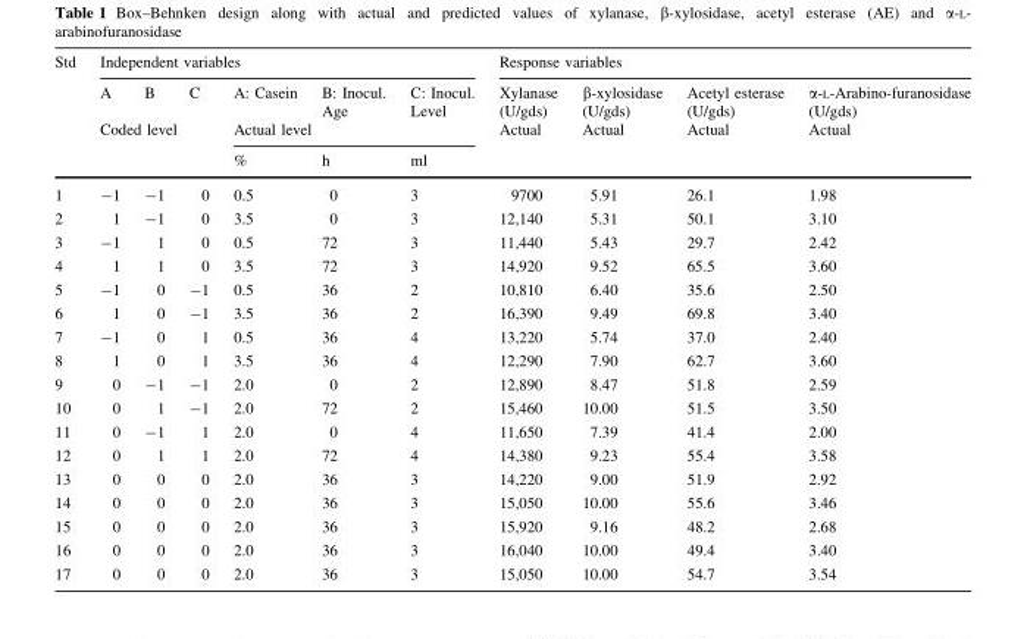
<table><thead><tr><td rowspan="4">Std</td><td colspan="6">Independent variables</td><td colspan="4">Response variables</td></tr><tr><td>A</td><td>B</td><td>C</td><td>A: Casein</td><td>B: Inocul. Age</td><td>C: Inocul. Level</td><td rowspan="3">Xylanase (U/gds) Actual</td><td rowspan="3">β-xylosidase (U/gds) Actual</td><td rowspan="3">Acetyl esterase (U/gds) Actual</td><td rowspan="3">α-L-Arabino-furanosidase (U/gds) Actual</td></tr><tr><td rowspan="2" colspan="3">Coded level</td><td colspan="3">Actual level</td></tr><tr><td>%</td><td>h</td><td>ml</td></tr></thead><tbody><tr><td>1</td><td>-1</td><td>-1</td><td>0</td><td>0.5</td><td>0</td><td>3</td><td>9700</td><td>5.91</td><td>26.1</td><td>1.98</td></tr><tr><td>2</td><td>1</td><td>-1</td><td>0</td><td>3.5</td><td>0</td><td>3</td><td>12,140</td><td>5.31</td><td>50.1</td><td>3.10</td></tr><tr><td>3</td><td>-1</td><td>1</td><td>0</td><td>0.5</td><td>72</td><td>3</td><td>11,440</td><td>5.43</td><td>29.7</td><td>2.42</td></tr><tr><td>4</td><td>1</td><td>1</td><td>0</td><td>3.5</td><td>72</td><td>3</td><td>14,920</td><td>9.52</td><td>65.5</td><td>3.60</td></tr><tr><td>5</td><td>-1</td><td>0</td><td>-1</td><td>0.5</td><td>36</td><td>2</td><td>10,810</td><td>6.40</td><td>35.6</td><td>2.50</td></tr><tr><td>6</td><td>1</td><td>0</td><td>-1</td><td>3.5</td><td>36</td><td>2</td><td>16,390</td><td>9.49</td><td>69.8</td><td>3.40</td></tr><tr><td>7</td><td>-1</td><td>0</td><td>1</td><td>0.5</td><td>36</td><td>4</td><td>13,220</td><td>5.74</td><td>37.0</td><td>2.40</td></tr><tr><td>8</td><td>1</td><td>0</td><td>1</td><td>3.5</td><td>36</td><td>4</td><td>12,290</td><td>7.90</td><td>62.7</td><td>3.60</td></tr><tr><td>9</td><td>0</td><td>-1</td><td>-1</td><td>2.0</td><td>0</td><td>2</td><td>12,890</td><td>8.47</td><td>51.8</td><td>2.59</td></tr><tr><td>10</td><td>0</td><td>1</td><td>-1</td><td>2.0</td><td>72</td><td>2</td><td>15,460</td><td>10.00</td><td>51.5</td><td>3.50</td></tr><tr><td>11</td><td>0</td><td>-1</td><td>1</td><td>2.0</td><td>0</td><td>4</td><td>11,650</td><td>7.39</td><td>41.4</td><td>2.00</td></tr><tr><td>12</td><td>0</td><td>1</td><td>1</td><td>2.0</td><td>72</td><td>4</td><td>14,380</td><td>9.23</td><td>55.4</td><td>3.58</td></tr><tr><td>13</td><td>0</td><td>0</td><td>0</td><td>2.0</td><td>36</td><td>3</td><td>14,220</td><td>9.00</td><td>51.9</td><td>2.92</td></tr><tr><td>14</td><td>0</td><td>0</td><td>0</td><td>2.0</td><td>36</td><td>3</td><td>15,050</td><td>10.00</td><td>55.6</td><td>3.46</td></tr><tr><td>15</td><td>0</td><td>0</td><td>0</td><td>2.0</td><td>36</td><td>3</td><td>15,920</td><td>9.16</td><td>48.2</td><td>2.68</td></tr><tr><td>16</td><td>0</td><td>0</td><td>0</td><td>2.0</td><td>36</td><td>3</td><td>16,040</td><td>10.00</td><td>49.4</td><td>3.40</td></tr><tr><td>17</td><td>0</td><td>0</td><td>0</td><td>2.0</td><td>36</td><td>3</td><td>15,050</td><td>10.00</td><td>54.7</td><td>3.54</td></tr></tbody></table>